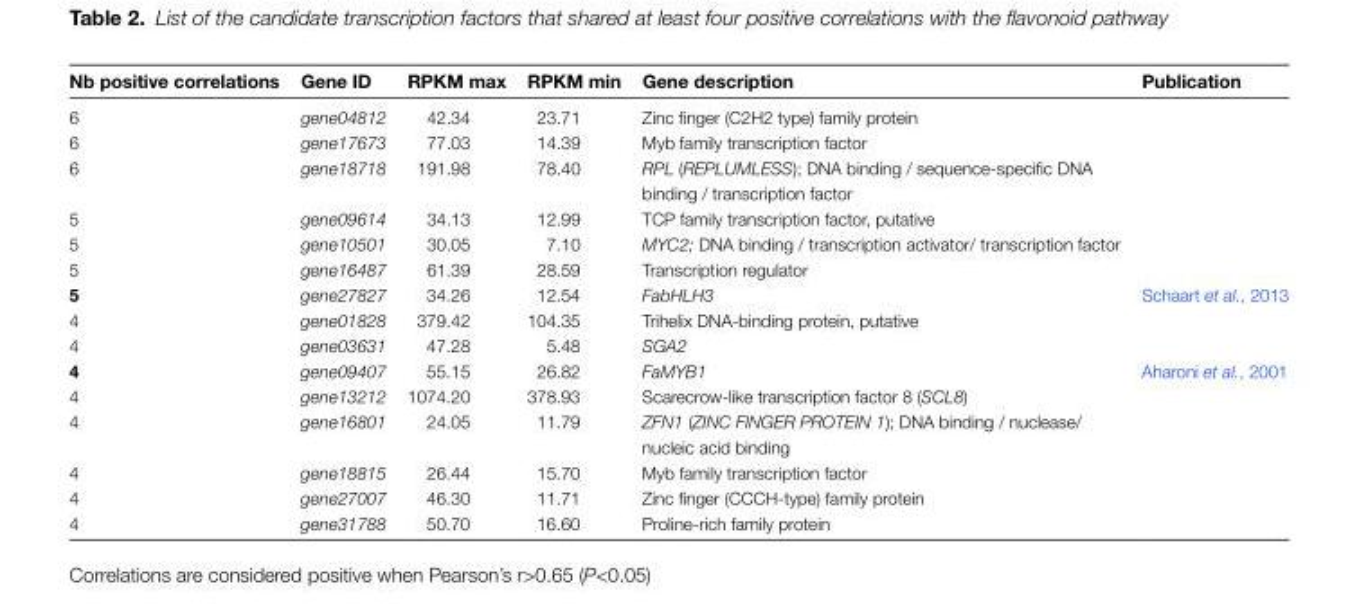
<table><thead><tr><td>Nb positive correlations</td><td>Gene ID</td><td>RPKM max</td><td>RPKM min</td><td>Gene description</td><td>Publication</td></tr></thead><tbody><tr><td>6</td><td>gene04812</td><td>42.34</td><td>23.71</td><td>Zinc finger (C2H2 type) family protein</td><td></td></tr><tr><td>6</td><td>gene17673</td><td>77.03</td><td>14.39</td><td>Myb family transcription factor</td><td></td></tr><tr><td>6</td><td>gene18718</td><td>191.98</td><td>78.40</td><td>RPL (REPLUMLESS); DNA binding / sequence-specific DNA binding / transcription factor</td><td></td></tr><tr><td>5</td><td>gene09614</td><td>34.13</td><td>12.99</td><td>TCP family transcription factor, putative</td><td></td></tr><tr><td>5</td><td>gene10501</td><td>30.05</td><td>7.10</td><td>MYC2; DNA binding / transcription activator/ transcription factor</td><td></td></tr><tr><td>5</td><td>gene16487</td><td>61.39</td><td>28.59</td><td>Transcription regulator</td><td></td></tr><tr><td>5</td><td>gene27827</td><td>34.26</td><td>12.54</td><td>FabHLH3</td><td>Schaart et al., 2013</td></tr><tr><td>4</td><td>gene01828</td><td>379.42</td><td>104.35</td><td>Trihelix DNA-binding protein, putative</td><td></td></tr><tr><td>4</td><td>gene03631</td><td>47.28</td><td>5.48</td><td>SGA2</td><td></td></tr><tr><td>4</td><td>gene09407</td><td>55.15</td><td>26.82</td><td>FaMYB1</td><td>Aharoni et al., 2001</td></tr><tr><td>4</td><td>gene13212</td><td>1074.20</td><td>378.93</td><td>Scarecrow-like transcription factor 8 (SCL8)</td><td></td></tr><tr><td>4</td><td>gene16801</td><td>24.05</td><td>11.79</td><td>ZFN1 (ZINC FINGER PROTEIN 1); DNA binding / nuclease/ nucleic acid binding</td><td></td></tr><tr><td>4</td><td>gene18815</td><td>26.44</td><td>15.70</td><td>Myb family transcription factor</td><td></td></tr><tr><td>4</td><td>gene27007</td><td>46.30</td><td>11.71</td><td>Zinc finger (CCCH-type) family protein</td><td></td></tr><tr><td>4</td><td>gene31788</td><td>50.70</td><td>16.60</td><td>Proline-rich family protein</td><td></td></tr></tbody></table>